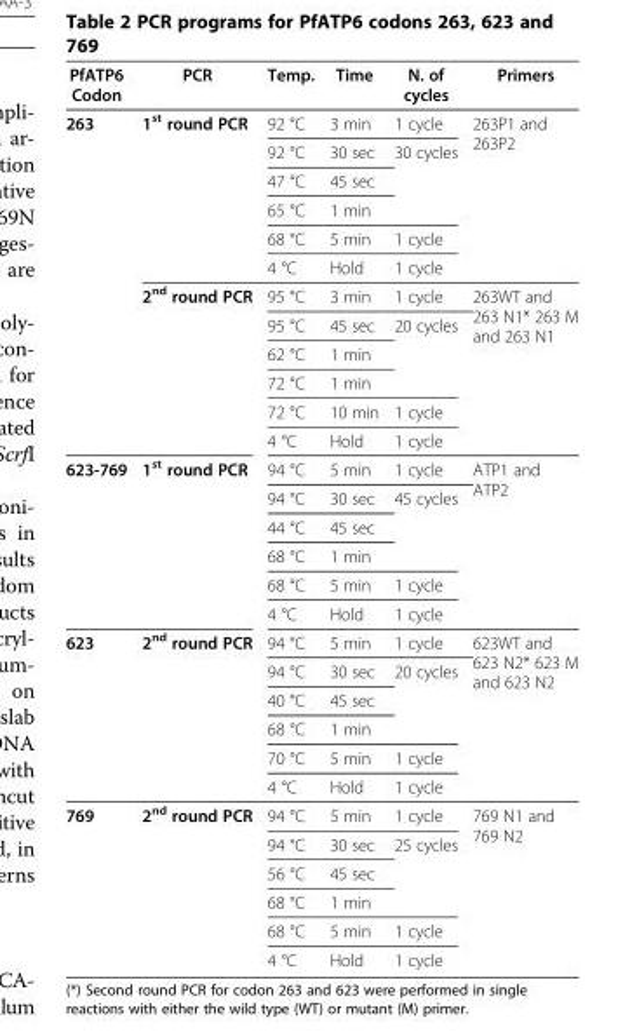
<table><thead><tr><td>PfATP6 Codon</td><td>PCR</td><td>Temp.</td><td>Time</td><td>N. of cycles</td><td>Primers</td></tr></thead><tbody><tr><td rowspan="12">263</td><td rowspan="6">1<sup>st</sup> round PCR</td><td>92 °C</td><td>3 min</td><td>1 cycle</td><td rowspan="6">263P1 and 263P2</td></tr><tr><td>92 °C</td><td>30 sec</td><td rowspan="3">30 cycles</td></tr><tr><td>47 °C</td><td>45 sec</td></tr><tr><td>65 °C</td><td>1 min</td></tr><tr><td>68 °C</td><td>5 min</td><td>1 cycle</td></tr><tr><td>4 °C</td><td>Hold</td><td>1 cycle</td></tr><tr><td rowspan="6">2<sup>nd</sup> round PCR</td><td>95 °C</td><td>3 min</td><td>1 cycle</td><td rowspan="6">263WT and 263 N1* 263 M and 263 N1</td></tr><tr><td>95 °C</td><td>45 sec</td><td rowspan="3">20 cycles</td></tr><tr><td>62 °C</td><td>1 min</td></tr><tr><td>72 °C</td><td>1 min</td></tr><tr><td>72 °C</td><td>10 min</td><td>1 cycle</td></tr><tr><td>4 °C</td><td>Hold</td><td>1 cycle</td></tr><tr><td rowspan="6">623-769</td><td rowspan="6">1<sup>st</sup> round PCR</td><td>94 °C</td><td>5 min</td><td>1 cycle</td><td rowspan="6">ATP1 and ATP2</td></tr><tr><td>94 °C</td><td>30 sec</td><td rowspan="3">45 cycles</td></tr><tr><td>44 °C</td><td>45 sec</td></tr><tr><td>68 °C</td><td>1 min</td></tr><tr><td>68 °C</td><td>5 min</td><td>1 cycle</td></tr><tr><td>4 °C</td><td>Hold</td><td>1 cycle</td></tr><tr><td rowspan="6">623</td><td rowspan="6">2<sup>nd</sup> round PCR</td><td>94 °C</td><td>5 min</td><td>1 cycle</td><td rowspan="6">623WT and 623 N2* 623 M and 623 N2</td></tr><tr><td>94 °C</td><td>30 sec</td><td rowspan="3">20 cycles</td></tr><tr><td>40 °C</td><td>45 sec</td></tr><tr><td>68 °C</td><td>1 min</td></tr><tr><td>70 °C</td><td>5 min</td><td>1 cycle</td></tr><tr><td>4 °C</td><td>Hold</td><td>1 cycle</td></tr><tr><td rowspan="6">769</td><td rowspan="6">2<sup>nd</sup> round PCR</td><td>94 °C</td><td>5 min</td><td>1 cycle</td><td rowspan="6">769 N1 and 769 N2</td></tr><tr><td>94 °C</td><td>30 sec</td><td rowspan="3">25 cycles</td></tr><tr><td>56 °C</td><td>45 sec</td></tr><tr><td>68 °C</td><td>1 min</td></tr><tr><td>68 °C</td><td>5 min</td><td>1 cycle</td></tr><tr><td>4 °C</td><td>Hold</td><td>1 cycle</td></tr></tbody></table>